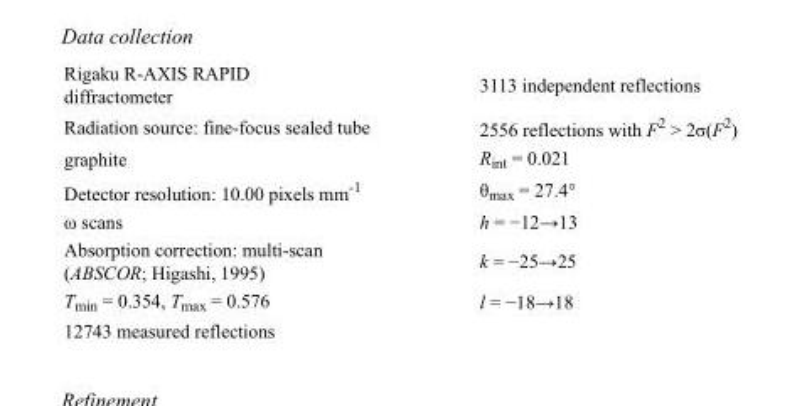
<table><tbody><tr><td>Rigaku R-AXIS RAPID diffractometer</td><td>3113 independent reflections</td></tr><tr><td>Radiation source: fine-focus sealed tube</td><td>2556 reflections with F<sup>2</sup> &gt; 2σ(F<sup>2</sup>)</td></tr><tr><td>graphite</td><td>R<sub>int</sub> = 0.021</td></tr><tr><td>Detector resolution: 10.00 pixels mm<sup>-1</sup></td><td>θ<sub>max</sub> = 27.4°</td></tr><tr><td>ω scans</td><td>h = −12→13</td></tr><tr><td>Absorption correction: multi-scan (ABSCOR; Higashi, 1995)</td><td>k = −25→25</td></tr><tr><td>T<sub>min</sub> = 0.354, T<sub>max</sub> = 0.576</td><td>l = −18→18</td></tr><tr><td>12743 measured reflections</td><td></td></tr></tbody></table>